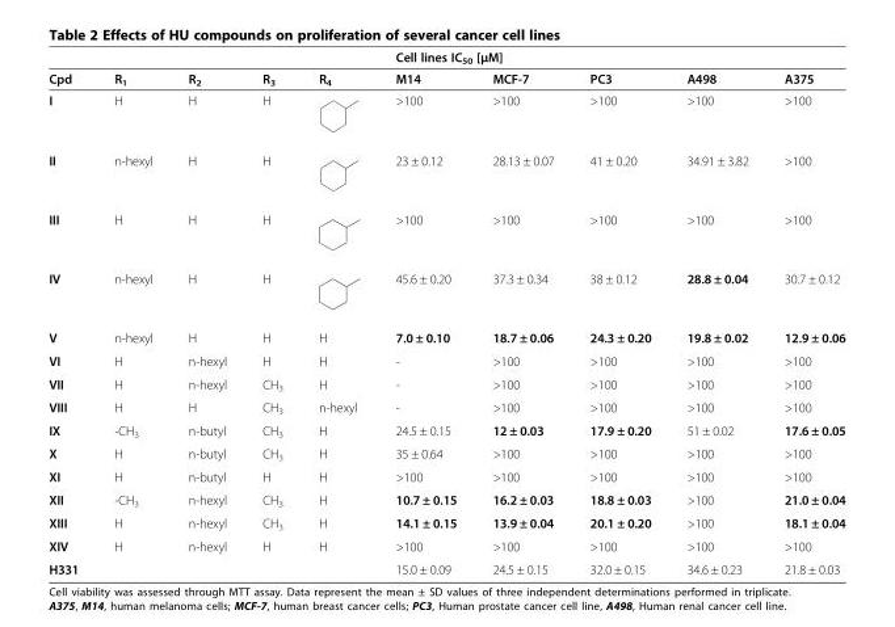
<table><thead><tr><td rowspan="2">Cpd</td><td rowspan="2">R<sub>1</sub></td><td rowspan="2">R<sub>2</sub></td><td rowspan="2">R<sub>3</sub></td><td rowspan="2">R<sub>4</sub></td><td colspan="5">Cell lines IC<sub>50</sub> [μM]</td></tr><tr><td>M14</td><td>MCF-7</td><td>PC3</td><td>A498</td><td>A375</td></tr></thead><tbody><tr><td>I</td><td>H</td><td>H</td><td>H</td><td></td><td>&gt;100</td><td>&gt;100</td><td>&gt;100</td><td>&gt;100</td><td>&gt;100</td></tr><tr><td>II</td><td>n-hexyl</td><td>H</td><td>H</td><td></td><td>23 ± 0.12</td><td>28.13 ± 0.07</td><td>41 ± 0.20</td><td>34.91 ± 3.82</td><td>&gt;100</td></tr><tr><td>III</td><td>H</td><td>H</td><td>H</td><td></td><td>&gt;100</td><td>&gt;100</td><td>&gt;100</td><td>&gt;100</td><td>&gt;100</td></tr><tr><td>IV</td><td>n-hexyl</td><td>H</td><td>H</td><td></td><td>45.6 ± 0.20</td><td>37.3 ± 0.34</td><td>38 ± 0.12</td><td>28.8 ± 0.04</td><td>30.7 ± 0.12</td></tr><tr><td>V</td><td>n-hexyl</td><td>H</td><td>H</td><td>H</td><td>7.0 ± 0.10</td><td>18.7 ± 0.06</td><td>24.3 ± 0.20</td><td>19.8 ± 0.02</td><td>12.9 ± 0.06</td></tr><tr><td>VI</td><td>H</td><td>n-hexyl</td><td>H</td><td>H</td><td>-</td><td>&gt;100</td><td>&gt;100</td><td>&gt;100</td><td>&gt;100</td></tr><tr><td>VII</td><td>H</td><td>n-hexyl</td><td>CH<sub>3</sub></td><td>H</td><td>-</td><td>&gt;100</td><td>&gt;100</td><td>&gt;100</td><td>&gt;100</td></tr><tr><td>VIII</td><td>H</td><td>H</td><td>CH<sub>3</sub></td><td>n-hexyl</td><td>-</td><td>&gt;100</td><td>&gt;100</td><td>&gt;100</td><td>&gt;100</td></tr><tr><td>IX</td><td>-CH<sub>3</sub></td><td>n-butyl</td><td>CH<sub>3</sub></td><td>H</td><td>24.5 ± 0.15</td><td>12 ± 0.03</td><td>17.9 ± 0.20</td><td>51 ± 0.02</td><td>17.6 ± 0.05</td></tr><tr><td>X</td><td>H</td><td>n-butyl</td><td>CH<sub>3</sub></td><td>H</td><td>35 ± 0.64</td><td>&gt;100</td><td>&gt;100</td><td>&gt;100</td><td>&gt;100</td></tr><tr><td>XI</td><td>H</td><td>n-butyl</td><td>H</td><td>H</td><td>&gt;100</td><td>&gt;100</td><td>&gt;100</td><td>&gt;100</td><td>&gt;100</td></tr><tr><td>XII</td><td>-CH<sub>3</sub></td><td>n-hexyl</td><td>CH<sub>3</sub></td><td>H</td><td>10.7 ± 0.15</td><td>16.2 ± 0.03</td><td>18.8 ± 0.03</td><td>&gt;100</td><td>21.0 ± 0.04</td></tr><tr><td>XIII</td><td>H</td><td>n-hexyl</td><td>CH<sub>3</sub></td><td>H</td><td>14.1 ± 0.15</td><td>13.9 ± 0.04</td><td>20.1 ± 0.20</td><td>&gt;100</td><td>18.1 ± 0.04</td></tr><tr><td>XIV</td><td>H</td><td>n-hexyl</td><td>H</td><td>H</td><td>&gt;100</td><td>&gt;100</td><td>&gt;100</td><td>&gt;100</td><td>&gt;100</td></tr><tr><td>H331</td><td colspan="4"></td><td>15.0 ± 0.09</td><td>24.5 ± 0.15</td><td>32.0 ± 0.15</td><td>34.6 ± 0.23</td><td>21.8 ± 0.03</td></tr></tbody></table>